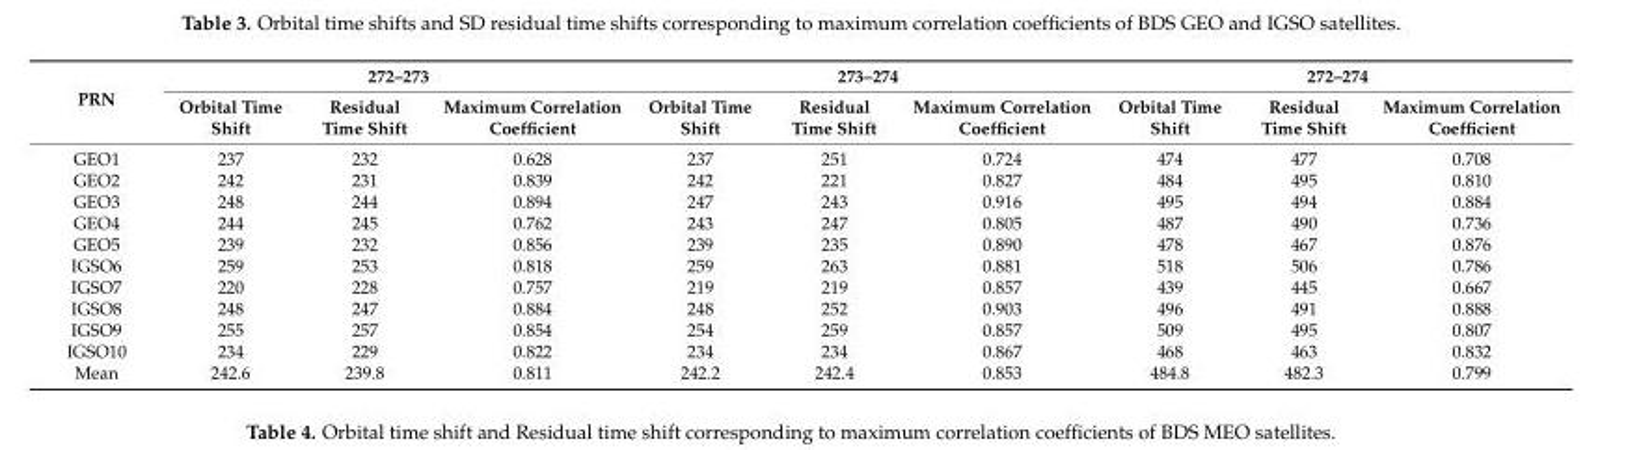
<table><thead><tr><td rowspan="2">PRN</td><td colspan="3">272–273</td><td colspan="3">273–274</td><td colspan="3">272–274</td></tr><tr><td>Orbital Time Shift</td><td>Residual Time Shift</td><td>Maximum Correlation Coefficient</td><td>Orbital Time Shift</td><td>Residual Time Shift</td><td>Maximum Correlation Coefficient</td><td>Orbital Time Shift</td><td>Residual Time Shift</td><td>Maximum Correlation Coefficient</td></tr></thead><tbody><tr><td>GEO1</td><td>237</td><td>232</td><td>0.628</td><td>237</td><td>251</td><td>0.724</td><td>474</td><td>477</td><td>0.708</td></tr><tr><td>GEO2</td><td>242</td><td>231</td><td>0.839</td><td>242</td><td>221</td><td>0.827</td><td>484</td><td>495</td><td>0.810</td></tr><tr><td>GEO3</td><td>248</td><td>244</td><td>0.894</td><td>247</td><td>243</td><td>0.916</td><td>495</td><td>494</td><td>0.884</td></tr><tr><td>GEO4</td><td>244</td><td>245</td><td>0.762</td><td>243</td><td>247</td><td>0.805</td><td>487</td><td>490</td><td>0.736</td></tr><tr><td>GEO5</td><td>239</td><td>232</td><td>0.856</td><td>239</td><td>235</td><td>0.890</td><td>478</td><td>467</td><td>0.876</td></tr><tr><td>IGSO6</td><td>259</td><td>253</td><td>0.818</td><td>259</td><td>263</td><td>0.881</td><td>518</td><td>506</td><td>0.786</td></tr><tr><td>IGSO7</td><td>220</td><td>228</td><td>0.757</td><td>219</td><td>219</td><td>0.857</td><td>439</td><td>445</td><td>0.667</td></tr><tr><td>IGSO8</td><td>248</td><td>247</td><td>0.884</td><td>248</td><td>252</td><td>0.903</td><td>496</td><td>491</td><td>0.888</td></tr><tr><td>IGSO9</td><td>255</td><td>257</td><td>0.854</td><td>254</td><td>259</td><td>0.857</td><td>509</td><td>495</td><td>0.807</td></tr><tr><td>IGSO10</td><td>234</td><td>229</td><td>0.822</td><td>234</td><td>234</td><td>0.867</td><td>468</td><td>463</td><td>0.832</td></tr><tr><td>Mean</td><td>242.6</td><td>239.8</td><td>0.811</td><td>242.2</td><td>242.4</td><td>0.853</td><td>484.8</td><td>482.3</td><td>0.799</td></tr></tbody></table>